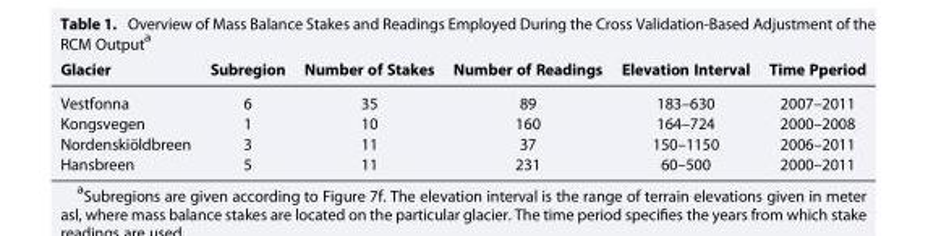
<table><thead><tr><td>Glacier</td><td>Subregion</td><td>Number of Stakes</td><td>Number of Readings</td><td>Elevation Interval</td><td>Time Pperiod</td></tr></thead><tbody><tr><td>Vestfonna</td><td>6</td><td>35</td><td>89</td><td>183–630</td><td>2007–2011</td></tr><tr><td>Kongsvegen</td><td>1</td><td>10</td><td>160</td><td>164–724</td><td>2000–2008</td></tr><tr><td>Nordenskiöldbreen</td><td>3</td><td>11</td><td>37</td><td>150–1150</td><td>2006–2011</td></tr><tr><td>Hansbreen</td><td>5</td><td>11</td><td>231</td><td>60–500</td><td>2000–2011</td></tr></tbody></table>